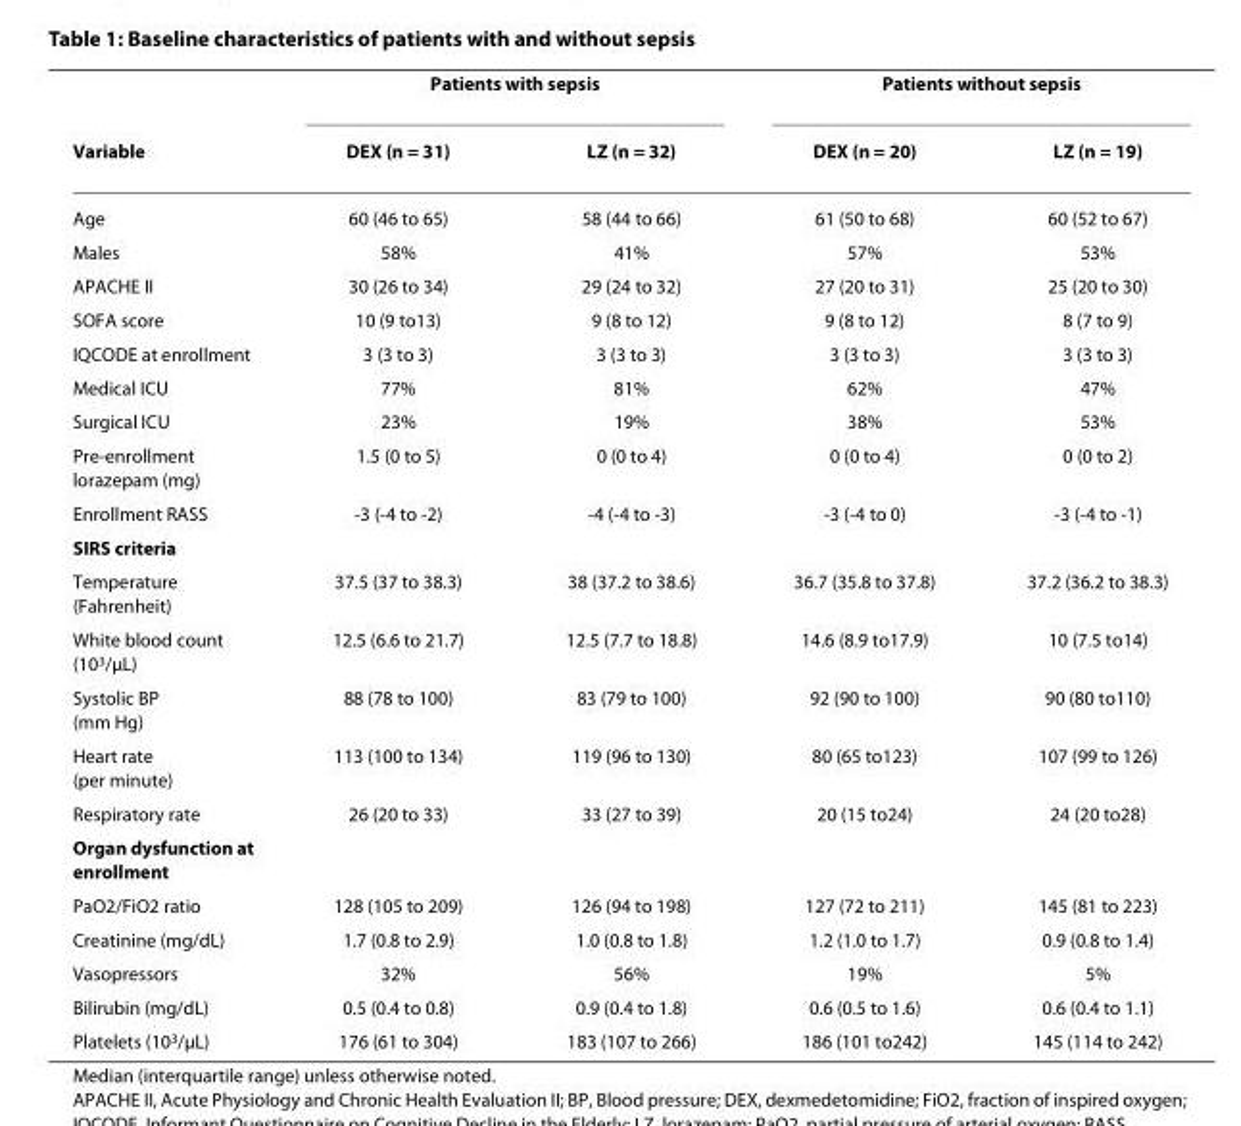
<table><thead><tr><td rowspan="2">Variable</td><td colspan="2">Patients with sepsis</td><td colspan="2">Patients without sepsis</td></tr><tr><td>DEX (n = 31)</td><td>LZ (n = 32)</td><td>DEX (n = 20)</td><td>LZ (n = 19)</td></tr></thead><tbody><tr><td>Age</td><td>60 (46 to 65)</td><td>58 (44 to 66)</td><td>61 (50 to 68)</td><td>60 (52 to 67)</td></tr><tr><td>Males</td><td>58%</td><td>41%</td><td>57%</td><td>53%</td></tr><tr><td>APACHE II</td><td>30 (26 to 34)</td><td>29 (24 to 32)</td><td>27 (20 to 31)</td><td>25 (20 to 30)</td></tr><tr><td>SOFA score</td><td>10 (9 to13)</td><td>9 (8 to 12)</td><td>9 (8 to 12)</td><td>8 (7 to 9)</td></tr><tr><td>IQCODE at enrollment</td><td>3 (3 to 3)</td><td>3 (3 to 3)</td><td>3 (3 to 3)</td><td>3 (3 to 3)</td></tr><tr><td>Medical ICU</td><td>77%</td><td>81%</td><td>62%</td><td>47%</td></tr><tr><td>Surgical ICU</td><td>23%</td><td>19%</td><td>38%</td><td>53%</td></tr><tr><td>Pre-enrollment lorazepam (mg)</td><td>1.5 (0 to 5)</td><td>0 (0 to 4)</td><td>0 (0 to 4)</td><td>0 (0 to 2)</td></tr><tr><td>Enrollment RASS</td><td>-3 (-4 to -2)</td><td>-4 (-4 to -3)</td><td>-3 (-4 to 0)</td><td>-3 (-4 to -1)</td></tr><tr><td colspan="5">SIRS criteria</td></tr><tr><td>Temperature (Fahrenheit)</td><td>37.5 (37 to 38.3)</td><td>38 (37.2 to 38.6)</td><td>36.7 (35.8 to 37.8)</td><td>37.2 (36.2 to 38.3)</td></tr><tr><td>White blood count (10<sup>3</sup>/μL)</td><td>12.5 (6.6 to 21.7)</td><td>12.5 (7.7 to 18.8)</td><td>14.6 (8.9 to17.9)</td><td>10 (7.5 to14)</td></tr><tr><td>Systolic BP (mm Hg)</td><td>88 (78 to 100)</td><td>83 (79 to 100)</td><td>92 (90 to 100)</td><td>90 (80 to110)</td></tr><tr><td>Heart rate (per minute)</td><td>113 (100 to 134)</td><td>119 (96 to 130)</td><td>80 (65 to123)</td><td>107 (99 to 126)</td></tr><tr><td>Respiratory rate</td><td>26 (20 to 33)</td><td>33 (27 to 39)</td><td>20 (15 to24)</td><td>24 (20 to28)</td></tr><tr><td colspan="5">Organ dysfunction at enrollment</td></tr><tr><td>PaO2/FiO2 ratio</td><td>128 (105 to 209)</td><td>126 (94 to 198)</td><td>127 (72 to 211)</td><td>145 (81 to 223)</td></tr><tr><td>Creatinine (mg/dL)</td><td>1.7 (0.8 to 2.9)</td><td>1.0 (0.8 to 1.8)</td><td>1.2 (1.0 to 1.7)</td><td>0.9 (0.8 to 1.4)</td></tr><tr><td>Vasopressors</td><td>32%</td><td>56%</td><td>19%</td><td>5%</td></tr><tr><td>Bilirubin (mg/dL)</td><td>0.5 (0.4 to 0.8)</td><td>0.9 (0.4 to 1.8)</td><td>0.6 (0.5 to 1.6)</td><td>0.6 (0.4 to 1.1)</td></tr><tr><td>Platelets (10<sup>3</sup>/μL)</td><td>176 (61 to 304)</td><td>183 (107 to 266)</td><td>186 (101 to242)</td><td>145 (114 to 242)</td></tr></tbody></table>